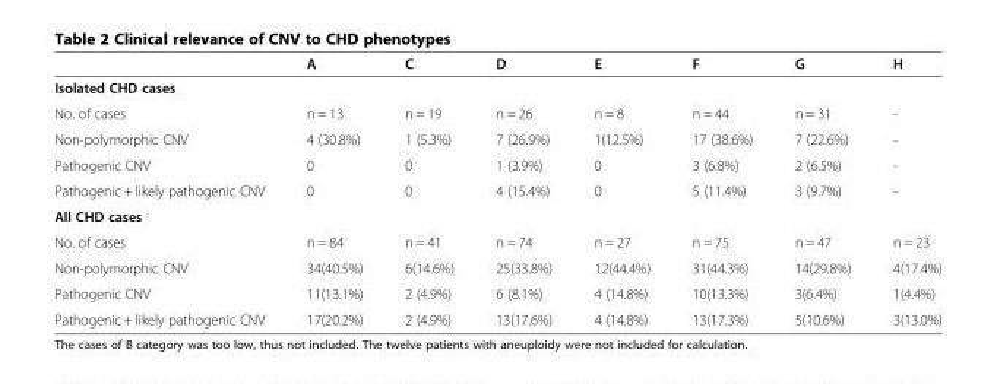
<table><thead><tr><td></td><td>A</td><td>C</td><td>D</td><td>E</td><td>F</td><td>G</td><td>H</td></tr></thead><tbody><tr><td colspan="8">Isolated CHD cases</td></tr><tr><td>No. of cases</td><td>n = 13</td><td>n = 19</td><td>n = 26</td><td>n = 8</td><td>n = 44</td><td>n = 31</td><td>-</td></tr><tr><td>Non-polymorphic CNV</td><td>4 (30.8%)</td><td>1 (5.3%)</td><td>7 (26.9%)</td><td>1(12.5%)</td><td>17 (38.6%)</td><td>7 (22.6%)</td><td>-</td></tr><tr><td>Pathogenic CNV</td><td>0</td><td>0</td><td>1 (3.9%)</td><td>0</td><td>3 (6.8%)</td><td>2 (6.5%)</td><td>-</td></tr><tr><td>Pathogenic + likely pathogenic CNV</td><td>0</td><td>0</td><td>4 (15.4%)</td><td>0</td><td>5 (11.4%)</td><td>3 (9.7%)</td><td>-</td></tr><tr><td colspan="8">All CHD cases</td></tr><tr><td>No. of cases</td><td>n = 84</td><td>n = 41</td><td>n = 74</td><td>n = 27</td><td>n = 75</td><td>n = 47</td><td>n = 23</td></tr><tr><td>Non-polymorphic CNV</td><td>34(40.5%)</td><td>6(14.6%)</td><td>25(33.8%)</td><td>12(44.4%)</td><td>31(44.3%)</td><td>14(29.8%)</td><td>4(17.4%)</td></tr><tr><td>Pathogenic CNV</td><td>11(13.1%)</td><td>2 (4.9%)</td><td>6 (8.1%)</td><td>4 (14.8%)</td><td>10(13.3%)</td><td>3(6.4%)</td><td>1(4.4%)</td></tr><tr><td>Pathogenic + likely pathogenic CNV</td><td>17(20.2%)</td><td>2 (4.9%)</td><td>13(17.6%)</td><td>4 (14.8%)</td><td>13(17.3%)</td><td>5(10.6%)</td><td>3(13.0%)</td></tr></tbody></table>